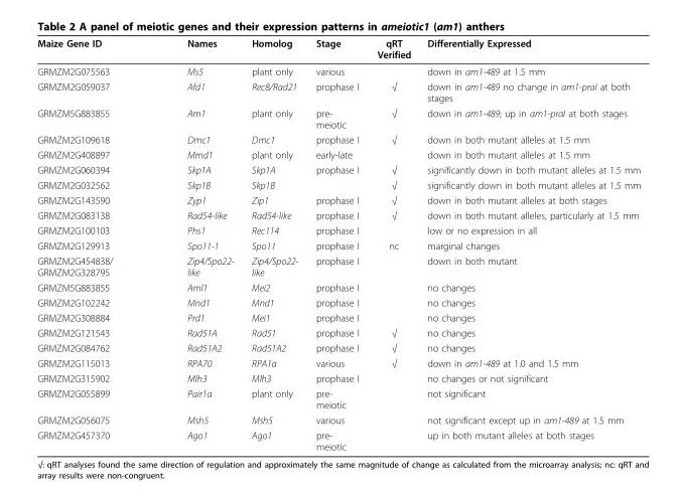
<table><thead><tr><td>Maize Gene ID</td><td>Names</td><td>Homolog</td><td>Stage</td><td>qRT Verified</td><td>Differentially Expressed</td></tr></thead><tbody><tr><td>GRMZM2G075563</td><td>Ms5</td><td>plant only</td><td>various</td><td></td><td>down in am1-489 at 1.5 mm</td></tr><tr><td>GRMZM2G059037</td><td>Afd1</td><td>Rec8/Rad21</td><td>prophase I</td><td>√</td><td>down in am1-489 no change in am1-praI at both stages</td></tr><tr><td>GRMZM5G883855</td><td>Am1</td><td>plant only</td><td>pre- meiotic</td><td>√</td><td>down in am1-489; up in am1-praI at both stages</td></tr><tr><td>GRMZM2G109618</td><td>Dmc1</td><td>Dmc1</td><td>prophase I</td><td>√</td><td>down in both mutant alleles at 1.5 mm</td></tr><tr><td>GRMZM2G408897</td><td>Mmd1</td><td>plant only</td><td>early-late</td><td></td><td>down in both mutant alleles at 1.5 mm</td></tr><tr><td>GRMZM2G060394</td><td>Skp1A</td><td>Skp1A</td><td>prophase I</td><td>√</td><td>significantly down in both mutant alleles at 1.5 mm</td></tr><tr><td>GRMZM2G032562</td><td>Skp1B</td><td>Skp1B</td><td></td><td>√</td><td>significantly down in both mutant alleles at 1.5 mm</td></tr><tr><td>GRMZM2G143590</td><td>Zyp1</td><td>Zip1</td><td>prophase I</td><td>√</td><td>down in both mutant alleles at both stages</td></tr><tr><td>GRMZM2G083138</td><td>Rad54-like</td><td>Rad54-like</td><td>prophase I</td><td>√</td><td>down in both mutant alleles, particularly at 1.5 mm</td></tr><tr><td>GRMZM2G100103</td><td>Phs1</td><td>Rec114</td><td>prophase I</td><td></td><td>low or no expression in all</td></tr><tr><td>GRMZM2G129913</td><td>Spo11-1</td><td>Spo11</td><td>prophase I</td><td>nc</td><td>marginal changes</td></tr><tr><td>GRMZM2G454838/ GRMZM2G328795</td><td>Zip4/Spo22- like</td><td>Zip4/Spo22- like</td><td>prophase I</td><td></td><td>down in both mutant</td></tr><tr><td>GRMZM5G883855</td><td>Aml1</td><td>Mei2</td><td>prophase I</td><td></td><td>no changes</td></tr><tr><td>GRMZM2G102242</td><td>Mnd1</td><td>Mnd1</td><td>prophase I</td><td></td><td>no changes</td></tr><tr><td>GRMZM2G308884</td><td>Prd1</td><td>Mei1</td><td>prophase I</td><td></td><td>no changes</td></tr><tr><td>GRMZM2G121543</td><td>Rad51A</td><td>Rad51</td><td>prophase I</td><td>√</td><td>no changes</td></tr><tr><td>GRMZM2G084762</td><td>Rad51A2</td><td>Rad51A2</td><td>prophase I</td><td>√</td><td>no changes</td></tr><tr><td>GRMZM2G115013</td><td>RPA70</td><td>RPA1a</td><td>various</td><td>√</td><td>down in am1-489 at 1.0 and 1.5 mm</td></tr><tr><td>GRMZM2G315902</td><td>Mlh3</td><td>Mlh3</td><td>prophase I</td><td></td><td>no changes or not significant</td></tr><tr><td>GRMZM2G055899</td><td>Pair1a</td><td>plant only</td><td>pre- meiotic</td><td></td><td>not significant</td></tr><tr><td>GRMZM2G056075</td><td>Msh5</td><td>Msh5</td><td>various</td><td></td><td>not significant except up in am1-489 at 1.5 mm</td></tr><tr><td>GRMZM2G457370</td><td>Ago1</td><td>Ago1</td><td>pre- meiotic</td><td></td><td>up in both mutant alleles at both stages</td></tr></tbody></table>